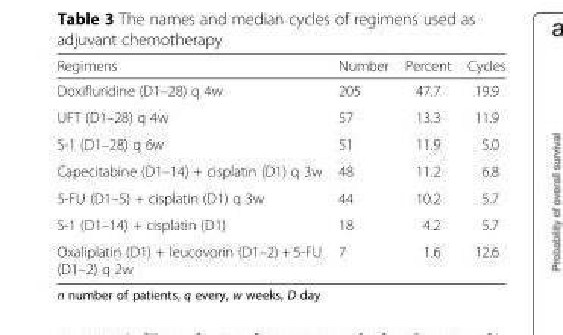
<table><thead><tr><td>Regimens</td><td>Number</td><td>Percent</td><td>Cycles</td></tr></thead><tbody><tr><td>Doxifluridine (D1–28) q 4w</td><td>205</td><td>47.7</td><td>19.9</td></tr><tr><td>UFT (D1–28) q 4w</td><td>57</td><td>13.3</td><td>11.9</td></tr><tr><td>S-1 (D1–28) q 6w</td><td>51</td><td>11.9</td><td>5.0</td></tr><tr><td>Capecitabine (D1–14) + cisplatin (D1) q 3w</td><td>48</td><td>11.2</td><td>6.8</td></tr><tr><td>5-FU (D1–5) + cisplatin (D1) q 3w</td><td>44</td><td>10.2</td><td>5.7</td></tr><tr><td>S-1 (D1–14) + cisplatin (D1)</td><td>18</td><td>4.2</td><td>5.7</td></tr><tr><td>Oxaliplatin (D1) + leucovorin (D1–2) + 5-FU (D1–2) q 2w</td><td>7</td><td>1.6</td><td>12.6</td></tr></tbody></table>